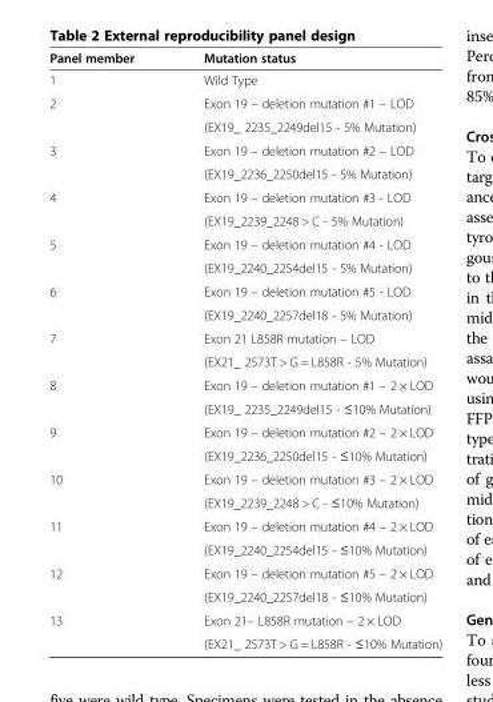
<table><thead><tr><td>Panel member</td><td>Mutation status</td></tr></thead><tbody><tr><td>1</td><td>Wild Type</td></tr><tr><td rowspan="2">2</td><td>Exon 19 – deletion mutation #1 – LOD</td></tr><tr><td>(EX19_ 2235_2249del15 - 5% Mutation)</td></tr><tr><td rowspan="2">3</td><td>Exon 19 – deletion mutation #2 – LOD</td></tr><tr><td>(EX19_2236_2250del15 - 5% Mutation)</td></tr><tr><td rowspan="2">4</td><td>Exon 19 – deletion mutation #3 - LOD</td></tr><tr><td>(EX19_2239_2248 &gt; C - 5% Mutation)</td></tr><tr><td rowspan="2">5</td><td>Exon 19 – deletion mutation #4 - LOD</td></tr><tr><td>(EX19_2240_2254del15 - 5% Mutation)</td></tr><tr><td rowspan="2">6</td><td>Exon 19 – deletion mutation #5 - LOD</td></tr><tr><td>(EX19_2240_2257del18 - 5% Mutation)</td></tr><tr><td rowspan="2">7</td><td>Exon 21 L858R mutation – LOD</td></tr><tr><td>(EX21_ 2573T &gt; G = L858R - 5% Mutation)</td></tr><tr><td rowspan="2">8</td><td>Exon 19 – deletion mutation #1 – 2 × LOD</td></tr><tr><td>(EX19_ 2235_2249del15 - ≤10% Mutation)</td></tr><tr><td rowspan="2">9</td><td>Exon 19 – deletion mutation #2 – 2 × LOD</td></tr><tr><td>(EX19_2236_2250del15 - ≤10% Mutation)</td></tr><tr><td rowspan="2">10</td><td>Exon 19 – deletion mutation #3 – 2 × LOD</td></tr><tr><td>(EX19_2239_2248 &gt; C - ≤10% Mutation)</td></tr><tr><td rowspan="2">11</td><td>Exon 19 – deletion mutation #4 – 2 × LOD</td></tr><tr><td>(EX19_2240_2254del15 - ≤10% Mutation)</td></tr><tr><td rowspan="2">12</td><td>Exon 19 – deletion mutation #5 – 2 × LOD</td></tr><tr><td>(EX19_2240_2257del18 - ≤10% Mutation)</td></tr><tr><td rowspan="2">13</td><td>Exon 21– L858R mutation – 2 × LOD</td></tr><tr><td>(EX21_ 2573T &gt; G = L858R - ≤10% Mutation)</td></tr></tbody></table>